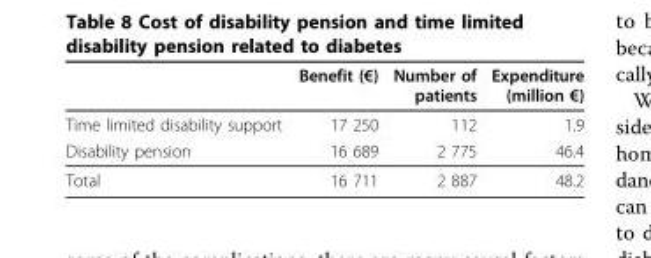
<table><thead><tr><td></td><td>Benefit (€)</td><td>Number of patients</td><td>Expenditure (million €)</td></tr></thead><tbody><tr><td>Time limited disability support</td><td>17 250</td><td>112</td><td>1.9</td></tr><tr><td>Disability pension</td><td>16 689</td><td>2 775</td><td>46.4</td></tr><tr><td>Total</td><td>16 711</td><td>2 887</td><td>48.2</td></tr></tbody></table>